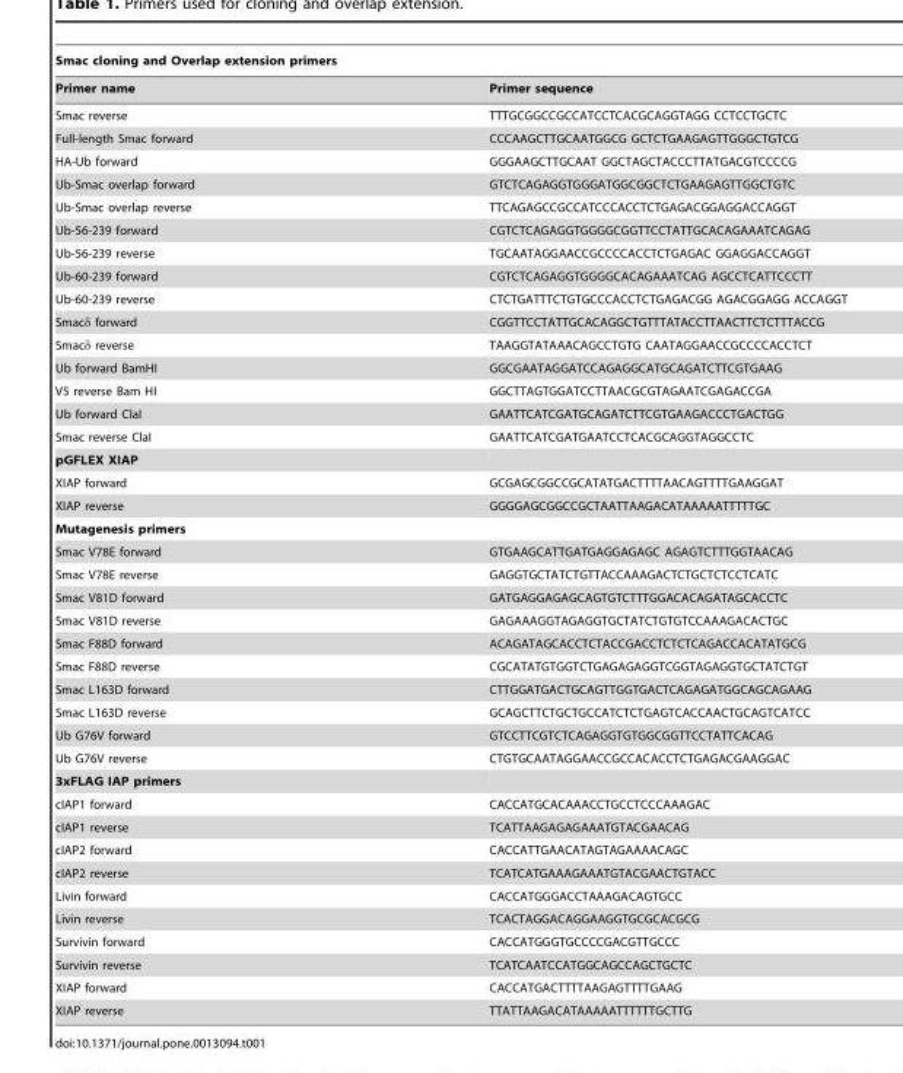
<table><thead><tr><td colspan="2">Smac cloning and Overlap extension primers</td></tr><tr><td>Primer name</td><td>Primer sequence</td></tr></thead><tbody><tr><td>Smac reverse</td><td>TTTGCGGCCGCCATCCTCACGCAGGTAGG CCTCCTGCTC</td></tr><tr><td>Full-length Smac forward</td><td>CCCAAGCTTGCAATGGCG GCTCTGAAGAGTTGGGCTGTCG</td></tr><tr><td>HA-Ub forward</td><td>GGGAAGCTTGCAAT GGCTAGCTACCCTTATGACGTCCCCG</td></tr><tr><td>Ub-Smac overlap forward</td><td>GTCTCAGAGGTGGGATGGCGGCTCTGAAGAGTTGGCTGTC</td></tr><tr><td>Ub-Smac overlap reverse</td><td>TTCAGAGCCGCCATCCCACCTCTGAGACGGAGGACCAGGT</td></tr><tr><td>Ub-56-239 forward</td><td>CGTCTCAGAGGTGGGGCGGTTCCTATTGCACAGAAATCAGAG</td></tr><tr><td>Ub-56-239 reverse</td><td>TGCAATAGGAACCGCCCCACCTCTGAGAC GGAGGACCAGGT</td></tr><tr><td>Ub-60-239 forward</td><td>CGTCTCAGAGGTGGGGCACAGAAATCAG AGCCTCATTCCCTT</td></tr><tr><td>Ub-60-239 reverse</td><td>CTCTGATTTCTGTGCCCACCTCTGAGACGG AGACGGAGG ACCAGGT</td></tr><tr><td>Smacδ forward</td><td>CGGTTCCTATTGCACAGGCTGTTTATACCTTAACTTCTCTTTACCG</td></tr><tr><td>Smacδ reverse</td><td>TAAGGTATAAACAGCCTGTG CAATAGGAACCGCCCCACCTCT</td></tr><tr><td>Ub forward BamHI</td><td>GGCGAATAGGATCCAGAGGCATGCAGATCTTCGTGAAG</td></tr><tr><td>V5 reverse Bam HI</td><td>GGCTTAGTGGATCCTTAACGCGTAGAATCGAGACCGA</td></tr><tr><td>Ub forward ClaI</td><td>GAATTCATCGATGCAGATCTTCGTGAAGACCCTGACTGG</td></tr><tr><td>Smac reverse ClaI</td><td>GAATTCATCGATGAATCCTCACGCAGGTAGGCCTC</td></tr><tr><td colspan="2">pGFLEX XIAP</td></tr><tr><td>XIAP forward</td><td>GCGAGCGGCCGCATATGACTTTTAACAGTTTTGAAGGAT</td></tr><tr><td>XIAP reverse</td><td>GGGGAGCGGCCGCTAATTAAGACATAAAAATTTTTGC</td></tr><tr><td colspan="2">Mutagenesis primers</td></tr><tr><td>Smac V78E forward</td><td>GTGAAGCATTGATGAGGAGAGC AGAGTCTTTGGTAACAG</td></tr><tr><td>Smac V78E reverse</td><td>GAGGTGCTATCTGTTACCAAAGACTCTGCTCTCCTCATC</td></tr><tr><td>Smac V81D forward</td><td>GATGAGGAGAGCAGTGTCTTTGGACACAGATAGCACCTC</td></tr><tr><td>Smac V81D reverse</td><td>GAGAAAGGTAGAGGTGCTATCTGTGTCCAAAGACACTGC</td></tr><tr><td>Smac F88D forward</td><td>ACAGATAGCACCTCTACCGACCTCTCTCAGACCACATATGCG</td></tr><tr><td>Smac F88D reverse</td><td>CGCATATGTGGTCTGAGAGAGGTCGGTAGAGGTGCTATCTGT</td></tr><tr><td>Smac L163D forward</td><td>CTTGGATGACTGCAGTTGGTGACTCAGAGATGGCAGCAGAAG</td></tr><tr><td>Smac L163D reverse</td><td>GCAGCTTCTGCTGCCATCTCTGAGTCACCAACTGCAGTCATCC</td></tr><tr><td>Ub G76V forward</td><td>GTCCTTCGTCTCAGAGGTGTGGCGGTTCCTATTCACAG</td></tr><tr><td>Ub G76V reverse</td><td>CTGTGCAATAGGAACCGCCACACCTCTGAGACGAAGGAC</td></tr><tr><td colspan="2">3xFLAG IAP primers</td></tr><tr><td>cIAP1 forward</td><td>CACCATGCACAAACCTGCCTCCCAAAGAC</td></tr><tr><td>cIAP1 reverse</td><td>TCATTAAGAGAGAAATGTACGAACAG</td></tr><tr><td>cIAP2 forward</td><td>CACCATTGAACATAGTAGAAAACAGC</td></tr><tr><td>cIAP2 reverse</td><td>TCATCATGAAAGAAATGTACGAACTGTACC</td></tr><tr><td>Livin forward</td><td>CACCATGGGACCTAAAGACAGTGCC</td></tr><tr><td>Livin reverse</td><td>TCACTAGGACAGGAAGGTGCGCACGCG</td></tr><tr><td>Survivin forward</td><td>CACCATGGGTGCCCCGACGTTGCCC</td></tr><tr><td>Survivin reverse</td><td>TCATCAATCCATGGCAGCCAGCTGCTC</td></tr><tr><td>XIAP forward</td><td>CACCATGACTTTTAAGAGTTTTGAAG</td></tr><tr><td>XIAP reverse</td><td>TTATTAAGACATAAAAATTTTTTGCTTG</td></tr></tbody></table>